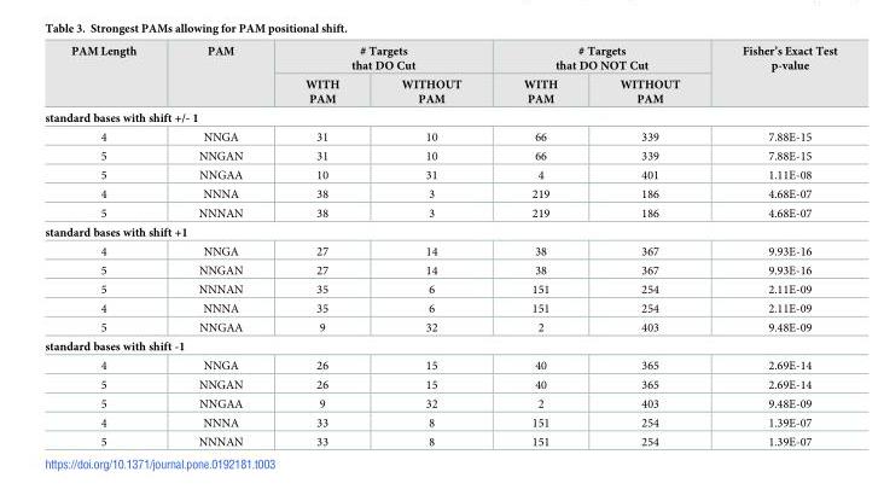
<table><thead><tr><td rowspan="2">PAM Length</td><td rowspan="2">PAM</td><td colspan="2"># Targets that DO Cut</td><td colspan="2"># Targets that DO NOT Cut</td><td rowspan="2">Fisher’s Exact Test p-value</td></tr><tr><td>WITH PAM</td><td>WITHOUT PAM</td><td>WITH PAM</td><td>WITHOUT PAM</td></tr></thead><tbody><tr><td colspan="7">standard bases with shift +/- 1</td></tr><tr><td>4</td><td>NNGA</td><td>31</td><td>10</td><td>66</td><td>339</td><td>7.88E-15</td></tr><tr><td>5</td><td>NNGAN</td><td>31</td><td>10</td><td>66</td><td>339</td><td>7.88E-15</td></tr><tr><td>5</td><td>NNGAA</td><td>10</td><td>31</td><td>4</td><td>401</td><td>1.11E-08</td></tr><tr><td>4</td><td>NNNA</td><td>38</td><td>3</td><td>219</td><td>186</td><td>4.68E-07</td></tr><tr><td>5</td><td>NNNAN</td><td>38</td><td>3</td><td>219</td><td>186</td><td>4.68E-07</td></tr><tr><td colspan="7">standard bases with shift +1</td></tr><tr><td>4</td><td>NNGA</td><td>27</td><td>14</td><td>38</td><td>367</td><td>9.93E-16</td></tr><tr><td>5</td><td>NNGAN</td><td>27</td><td>14</td><td>38</td><td>367</td><td>9.93E-16</td></tr><tr><td>5</td><td>NNNAN</td><td>35</td><td>6</td><td>151</td><td>254</td><td>2.11E-09</td></tr><tr><td>4</td><td>NNNA</td><td>35</td><td>6</td><td>151</td><td>254</td><td>2.11E-09</td></tr><tr><td>5</td><td>NNGAA</td><td>9</td><td>32</td><td>2</td><td>403</td><td>9.48E-09</td></tr><tr><td colspan="7">standard bases with shift -1</td></tr><tr><td>4</td><td>NNGA</td><td>26</td><td>15</td><td>40</td><td>365</td><td>2.69E-14</td></tr><tr><td>5</td><td>NNGAN</td><td>26</td><td>15</td><td>40</td><td>365</td><td>2.69E-14</td></tr><tr><td>5</td><td>NNGAA</td><td>9</td><td>32</td><td>2</td><td>403</td><td>9.48E-09</td></tr><tr><td>4</td><td>NNNA</td><td>33</td><td>8</td><td>151</td><td>254</td><td>1.39E-07</td></tr><tr><td>5</td><td>NNNAN</td><td>33</td><td>8</td><td>151</td><td>254</td><td>1.39E-07</td></tr></tbody></table>